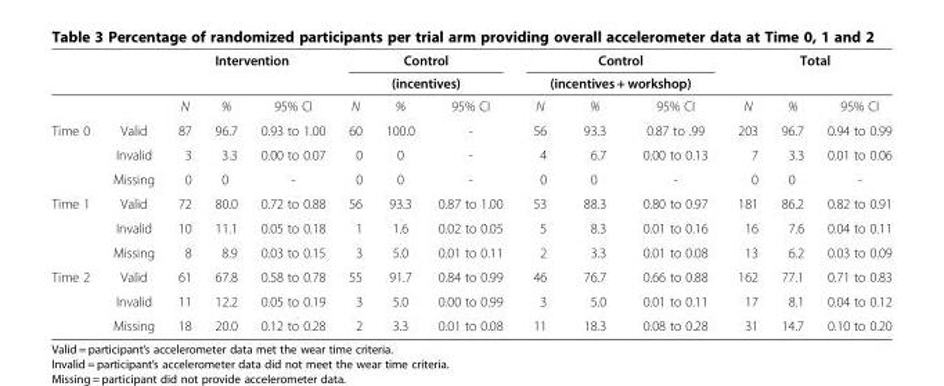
<table><thead><tr><td rowspan="3"></td><td rowspan="3"></td><td rowspan="2" colspan="3">Intervention</td><td rowspan="2" colspan="3">Control (incentives)</td><td rowspan="2" colspan="3">Control (incentives + workshop)</td><td rowspan="2" colspan="3">Total</td></tr><tr></tr><tr><td>N</td><td>%</td><td>95% CI</td><td>N</td><td>%</td><td>95% CI</td><td>N</td><td>%</td><td>95% CI</td><td>N</td><td>%</td><td>95% CI</td></tr></thead><tbody><tr><td rowspan="3">Time 0</td><td>Valid</td><td>87</td><td>96.7</td><td>0.93 to 1.00</td><td>60</td><td>100.0</td><td>-</td><td>56</td><td>93.3</td><td>0.87 to .99</td><td>203</td><td>96.7</td><td>0.94 to 0.99</td></tr><tr><td>Invalid</td><td>3</td><td>3.3</td><td>0.00 to 0.07</td><td>0</td><td>0</td><td>-</td><td>4</td><td>6.7</td><td>0.00 to 0.13</td><td>7</td><td>3.3</td><td>0.01 to 0.06</td></tr><tr><td>Missing</td><td>0</td><td>0</td><td>-</td><td>0</td><td>0</td><td>-</td><td>0</td><td>0</td><td>-</td><td>0</td><td>0</td><td>-</td></tr><tr><td rowspan="3">Time 1</td><td>Valid</td><td>72</td><td>80.0</td><td>0.72 to 0.88</td><td>56</td><td>93.3</td><td>0.87 to 1.00</td><td>53</td><td>88.3</td><td>0.80 to 0.97</td><td>181</td><td>86.2</td><td>0.82 to 0.91</td></tr><tr><td>Invalid</td><td>10</td><td>11.1</td><td>0.05 to 0.18</td><td>1</td><td>1.6</td><td>0.02 to 0.05</td><td>5</td><td>8.3</td><td>0.01 to 0.16</td><td>16</td><td>7.6</td><td>0.04 to 0.11</td></tr><tr><td>Missing</td><td>8</td><td>8.9</td><td>0.03 to 0.15</td><td>3</td><td>5.0</td><td>0.01 to 0.11</td><td>2</td><td>3.3</td><td>0.01 to 0.08</td><td>13</td><td>6.2</td><td>0.03 to 0.09</td></tr><tr><td rowspan="3">Time 2</td><td>Valid</td><td>61</td><td>67.8</td><td>0.58 to 0.78</td><td>55</td><td>91.7</td><td>0.84 to 0.99</td><td>46</td><td>76.7</td><td>0.66 to 0.88</td><td>162</td><td>77.1</td><td>0.71 to 0.83</td></tr><tr><td>Invalid</td><td>11</td><td>12.2</td><td>0.05 to 0.19</td><td>3</td><td>5.0</td><td>0.00 to 0.99</td><td>3</td><td>5.0</td><td>0.01 to 0.11</td><td>17</td><td>8.1</td><td>0.04 to 0.12</td></tr><tr><td>Missing</td><td>18</td><td>20.0</td><td>0.12 to 0.28</td><td>2</td><td>3.3</td><td>0.01 to 0.08</td><td>11</td><td>18.3</td><td>0.08 to 0.28</td><td>31</td><td>14.7</td><td>0.10 to 0.20</td></tr></tbody></table>